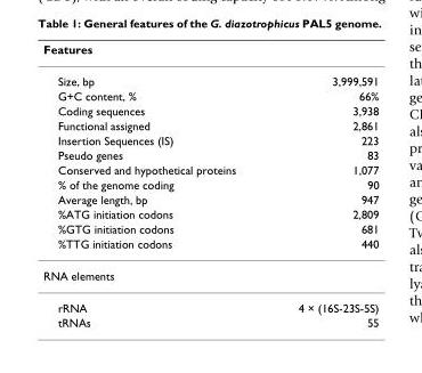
<table><thead><tr><td>Features</td><td></td></tr></thead><tbody><tr><td>Size, bp</td><td>3,999,591</td></tr><tr><td>G+C content, %</td><td>66%</td></tr><tr><td>Coding sequences</td><td>3,938</td></tr><tr><td>Functional assigned</td><td>2,861</td></tr><tr><td>Insertion Sequences (IS)</td><td>223</td></tr><tr><td>Pseudo genes</td><td>83</td></tr><tr><td>Conserved and hypothetical proteins</td><td>1,077</td></tr><tr><td>% of the genome coding</td><td>90</td></tr><tr><td>Average length, bp</td><td>947</td></tr><tr><td>%ATG initiation codons</td><td>2,809</td></tr><tr><td>%GTG initiation codons</td><td>681</td></tr><tr><td>%TTG initiation codons</td><td>440</td></tr><tr><td colspan="2">RNA elements</td></tr><tr><td>rRNA</td><td>4 × (16S-23S-5S)</td></tr><tr><td>tRNAs</td><td>55</td></tr></tbody></table>